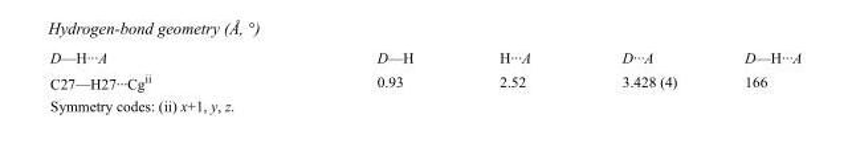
<table><tbody><tr><td>D—H···A</td><td>D—H</td><td>H···A</td><td>D···A</td><td>D—H···A</td></tr><tr><td>C27—H27···Cg<sup>ii</sup></td><td>0.93</td><td>2.52</td><td>3.428 (4)</td><td>166</td></tr></tbody></table>